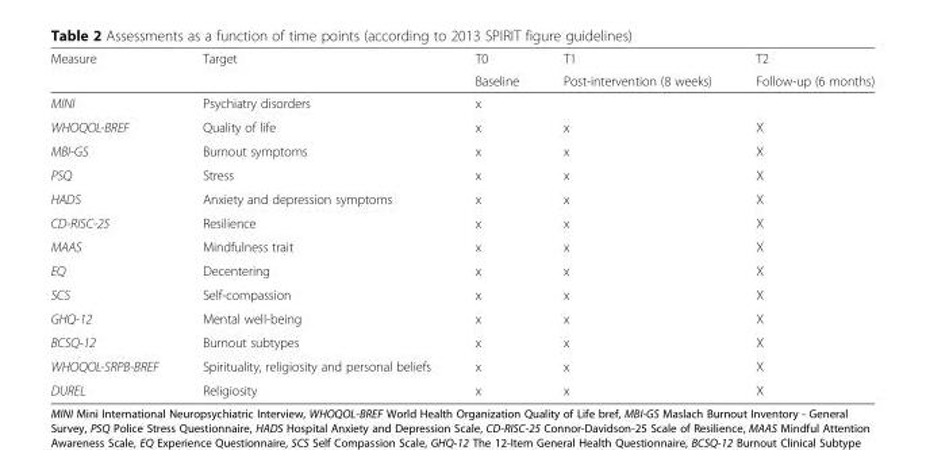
<table><thead><tr><td rowspan="2">Measure</td><td rowspan="2">Target</td><td rowspan="2">T0 Baseline</td><td rowspan="2">T1 Post-intervention (8 weeks)</td><td rowspan="2">T2 Follow-up (6 months)</td></tr><tr></tr></thead><tbody><tr><td>MINI</td><td>Psychiatry disorders</td><td>x</td><td></td><td></td></tr><tr><td>WHOQOL-BREF</td><td>Quality of life</td><td>x</td><td>x</td><td>X</td></tr><tr><td>MBI-GS</td><td>Burnout symptoms</td><td>x</td><td>x</td><td>X</td></tr><tr><td>PSQ</td><td>Stress</td><td>x</td><td>x</td><td>X</td></tr><tr><td>HADS</td><td>Anxiety and depression symptoms</td><td>x</td><td>x</td><td>X</td></tr><tr><td>CD-RISC-25</td><td>Resilience</td><td>x</td><td>x</td><td>X</td></tr><tr><td>MAAS</td><td>Mindfulness trait</td><td>x</td><td>x</td><td>X</td></tr><tr><td>EQ</td><td>Decentering</td><td>x</td><td>x</td><td>X</td></tr><tr><td>SCS</td><td>Self-compassion</td><td>x</td><td>x</td><td>X</td></tr><tr><td>GHQ-12</td><td>Mental well-being</td><td>x</td><td>x</td><td>X</td></tr><tr><td>BCSQ-12</td><td>Burnout subtypes</td><td>x</td><td>x</td><td>X</td></tr><tr><td>WHOQOL-SRPB-BREF</td><td>Spirituality, religiosity and personal beliefs</td><td>x</td><td>x</td><td>X</td></tr><tr><td>DUREL</td><td>Religiosity</td><td>x</td><td>x</td><td>X</td></tr></tbody></table>